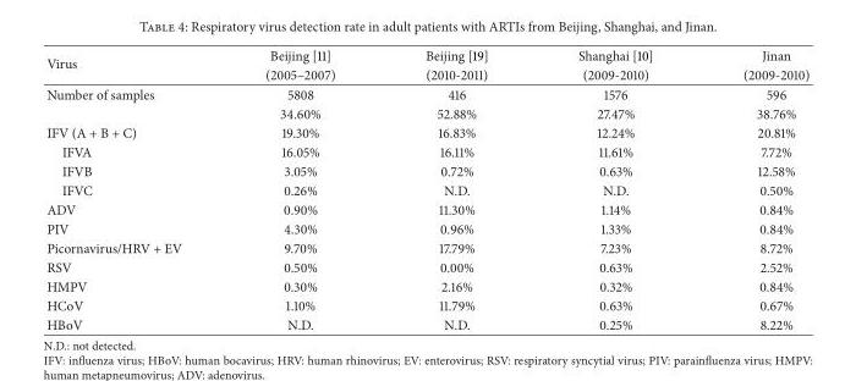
<table><thead><tr><td rowspan="2">Virus</td><td rowspan="2">Beijing [11] (2005–2007)</td><td rowspan="2">Beijing [19] (2010-2011)</td><td rowspan="2">Shanghai [10] (2009-2010)</td><td rowspan="2">Jinan (2009-2010)</td></tr><tr></tr></thead><tbody><tr><td rowspan="2">Number of samples</td><td>5808</td><td>416</td><td>1576</td><td>596</td></tr><tr><td>34.60%</td><td>52.88%</td><td>27.47%</td><td>38.76%</td></tr><tr><td>IFV (A + B + C)</td><td>19.30%</td><td>16.83%</td><td>12.24%</td><td>20.81%</td></tr><tr><td>IFVA</td><td>16.05%</td><td>16.11%</td><td>11.61%</td><td>7.72%</td></tr><tr><td>IFVB</td><td>3.05%</td><td>0.72%</td><td>0.63%</td><td>12.58%</td></tr><tr><td>IFVC</td><td>0.26%</td><td>N.D.</td><td>N.D.</td><td>0.50%</td></tr><tr><td>ADV</td><td>0.90%</td><td>11.30%</td><td>1.14%</td><td>0.84%</td></tr><tr><td>PIV</td><td>4.30%</td><td>0.96%</td><td>1.33%</td><td>0.84%</td></tr><tr><td>Picornavirus/HRV + EV</td><td>9.70%</td><td>17.79%</td><td>7.23%</td><td>8.72%</td></tr><tr><td>RSV</td><td>0.50%</td><td>0.00%</td><td>0.63%</td><td>2.52%</td></tr><tr><td>HMPV</td><td>0.30%</td><td>2.16%</td><td>0.32%</td><td>0.84%</td></tr><tr><td>HCoV</td><td>1.10%</td><td>11.79%</td><td>0.63%</td><td>0.67%</td></tr><tr><td>HBoV</td><td>N.D.</td><td>N.D.</td><td>0.25%</td><td>8.22%</td></tr></tbody></table>